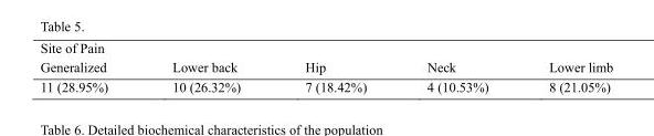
<table><thead><tr><td>Site of Pain Generalized</td><td>Lower back</td><td>Hip</td><td>Neck</td><td>Lower limb</td></tr></thead><tbody><tr><td>11 (28.95%)</td><td>10 (26.32%)</td><td>7 (18.42%)</td><td>4 (10.53%)</td><td>8 (21.05%)</td></tr></tbody></table>